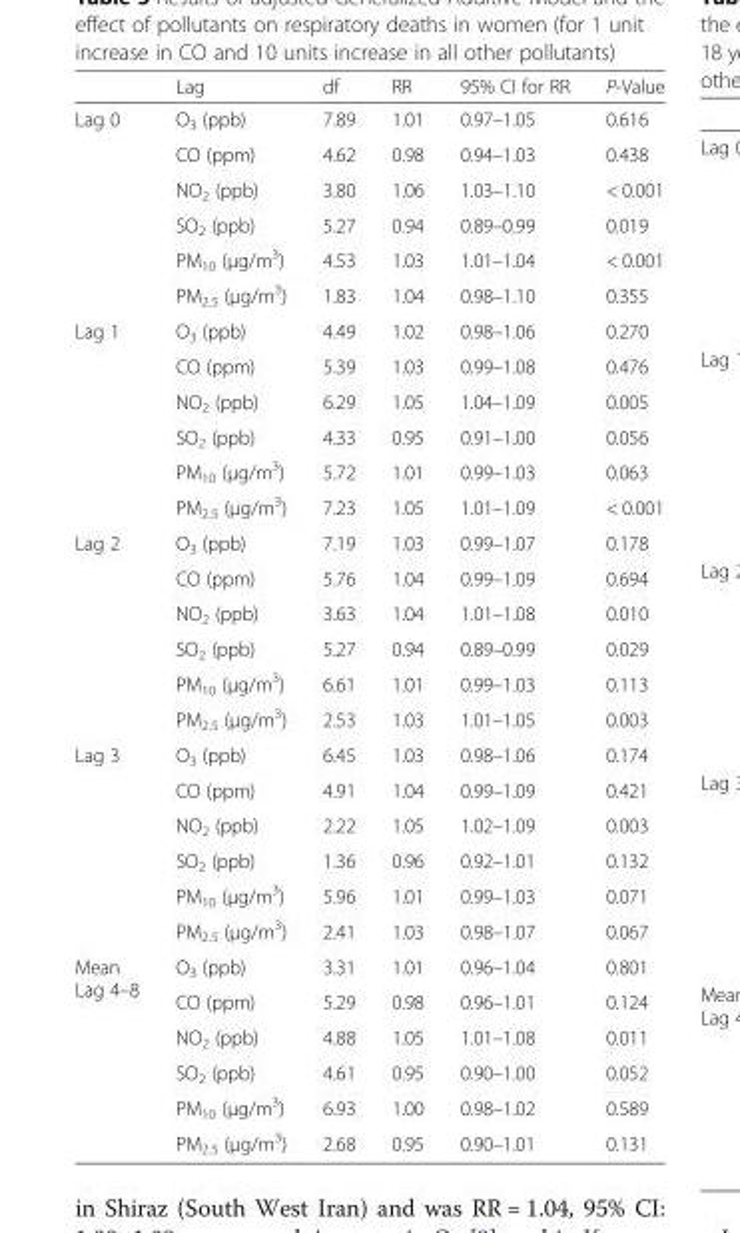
<table><thead><tr><td></td><td>Lag</td><td>df</td><td>RR</td><td>95% CI for RR</td><td>P-Value</td></tr></thead><tbody><tr><td rowspan="6">Lag 0</td><td>O<sub>3</sub> (ppb)</td><td>7.89</td><td>1.01</td><td>0.97–1.05</td><td>0.616</td></tr><tr><td>CO (ppm)</td><td>4.62</td><td>0.98</td><td>0.94–1.03</td><td>0.438</td></tr><tr><td>NO<sub>2</sub> (ppb)</td><td>3.80</td><td>1.06</td><td>1.03–1.10</td><td>&lt; 0.001</td></tr><tr><td>SO<sub>2</sub> (ppb)</td><td>5.27</td><td>0.94</td><td>0.89–0.99</td><td>0.019</td></tr><tr><td>PM<sub>10</sub> (μg/m<sup>3</sup>)</td><td>4.53</td><td>1.03</td><td>1.01–1.04</td><td>&lt; 0.001</td></tr><tr><td>PM<sub>2.5</sub> (μg/m<sup>3</sup>)</td><td>1.83</td><td>1.04</td><td>0.98–1.10</td><td>0.355</td></tr><tr><td rowspan="6">Lag 1</td><td>O<sub>3</sub> (ppb)</td><td>4.49</td><td>1.02</td><td>0.98–1.06</td><td>0.270</td></tr><tr><td>CO (ppm)</td><td>5.39</td><td>1.03</td><td>0.99–1.08</td><td>0.476</td></tr><tr><td>NO<sub>2</sub> (ppb)</td><td>6.29</td><td>1.05</td><td>1.04–1.09</td><td>0.005</td></tr><tr><td>SO<sub>2</sub> (ppb)</td><td>4.33</td><td>0.95</td><td>0.91–1.00</td><td>0.056</td></tr><tr><td>PM<sub>10</sub> (μg/m<sup>3</sup>)</td><td>5.72</td><td>1.01</td><td>0.99–1.03</td><td>0.063</td></tr><tr><td>PM<sub>2.5</sub> (μg/m<sup>3</sup>)</td><td>7.23</td><td>1.05</td><td>1.01–1.09</td><td>&lt; 0.001</td></tr><tr><td rowspan="6">Lag 2</td><td>O<sub>3</sub> (ppb)</td><td>7.19</td><td>1.03</td><td>0.99–1.07</td><td>0.178</td></tr><tr><td>CO (ppm)</td><td>5.76</td><td>1.04</td><td>0.99–1.09</td><td>0.694</td></tr><tr><td>NO<sub>2</sub> (ppb)</td><td>3.63</td><td>1.04</td><td>1.01–1.08</td><td>0.010</td></tr><tr><td>SO<sub>2</sub> (ppb)</td><td>5.27</td><td>0.94</td><td>0.89–0.99</td><td>0.029</td></tr><tr><td>PM<sub>10</sub> (μg/m<sup>3</sup>)</td><td>6.61</td><td>1.01</td><td>0.99–1.03</td><td>0.113</td></tr><tr><td>PM<sub>2.5</sub> (μg/m<sup>3</sup>)</td><td>2.53</td><td>1.03</td><td>1.01–1.05</td><td>0.003</td></tr><tr><td rowspan="6">Lag 3</td><td>O<sub>3</sub> (ppb)</td><td>6.45</td><td>1.03</td><td>0.98–1.06</td><td>0.174</td></tr><tr><td>CO (ppm)</td><td>4.91</td><td>1.04</td><td>0.99–1.09</td><td>0.421</td></tr><tr><td>NO<sub>2</sub> (ppb)</td><td>2.22</td><td>1.05</td><td>1.02–1.09</td><td>0.003</td></tr><tr><td>SO<sub>2</sub> (ppb)</td><td>1.36</td><td>0.96</td><td>0.92–1.01</td><td>0.132</td></tr><tr><td>PM<sub>10</sub> (μg/m<sup>3</sup>)</td><td>5.96</td><td>1.01</td><td>0.99–1.03</td><td>0.071</td></tr><tr><td>PM<sub>2.5</sub> (μg/m<sup>3</sup>)</td><td>2.41</td><td>1.03</td><td>0.98–1.07</td><td>0.067</td></tr><tr><td rowspan="6">Mean Lag 4–8</td><td>O<sub>3</sub> (ppb)</td><td>3.31</td><td>1.01</td><td>0.96–1.04</td><td>0.801</td></tr><tr><td>CO (ppm)</td><td>5.29</td><td>0.98</td><td>0.96–1.01</td><td>0.124</td></tr><tr><td>NO<sub>2</sub> (ppb)</td><td>4.88</td><td>1.05</td><td>1.01–1.08</td><td>0.011</td></tr><tr><td>SO<sub>2</sub> (ppb)</td><td>4.61</td><td>0.95</td><td>0.90–1.00</td><td>0.052</td></tr><tr><td>PM<sub>10</sub> (μg/m<sup>3</sup>)</td><td>6.93</td><td>1.00</td><td>0.98–1.02</td><td>0.589</td></tr><tr><td>PM<sub>2.5</sub> (μg/m<sup>3</sup>)</td><td>2.68</td><td>0.95</td><td>0.90–1.01</td><td>0.131</td></tr></tbody></table>